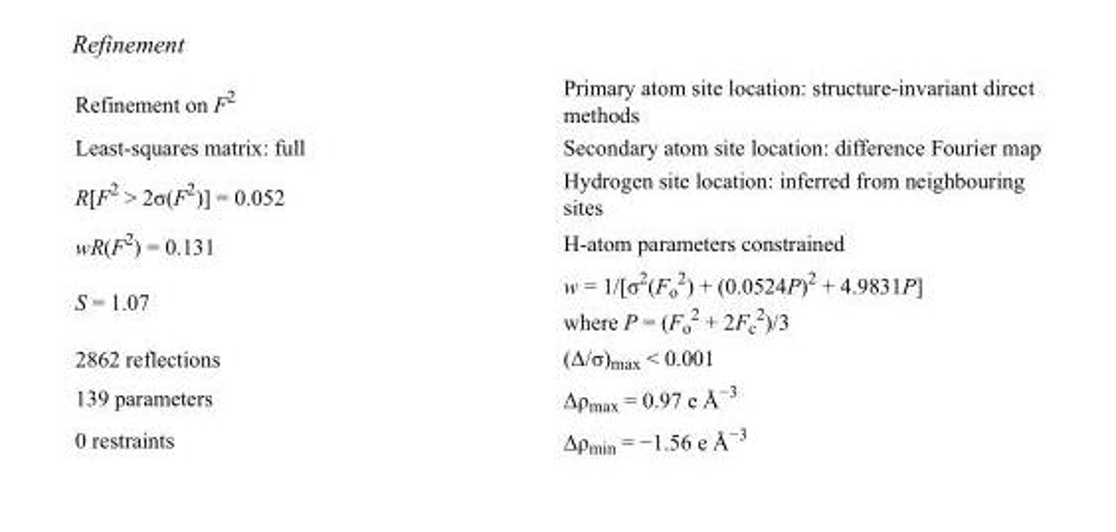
<table><tbody><tr><td>Refinement on F<sup>2</sup></td><td>Primary atom site location: structure-invariant direct methods</td></tr><tr><td>Least-squares matrix: full</td><td>Secondary atom site location: difference Fourier map</td></tr><tr><td>R[F<sup>2</sup> &gt; 2σ(F<sup>2</sup>)] = 0.052</td><td>Hydrogen site location: inferred from neighbouring sites</td></tr><tr><td>wR(F<sup>2</sup>) = 0.131</td><td>H-atom parameters constrained</td></tr><tr><td>S = 1.07</td><td>w = 1/[σ<sup>2</sup>(F<sub>o</sub> <sup>2</sup>) + (0.0524P)<sup>2</sup> + 4.9831P] where P = (F<sub>o</sub> <sup>2</sup> + 2F<sub>c</sub> <sup>2</sup>)/3</td></tr><tr><td>2862 reflections</td><td>(Δ/σ)<sub>max</sub> &lt; 0.001</td></tr><tr><td>139 parameters</td><td>Δρ<sub>max</sub> = 0.97 e Å<sup>−3</sup></td></tr><tr><td>0 restraints</td><td>Δρ<sub>min</sub> = −1.56 e Å<sup>−3</sup></td></tr></tbody></table>